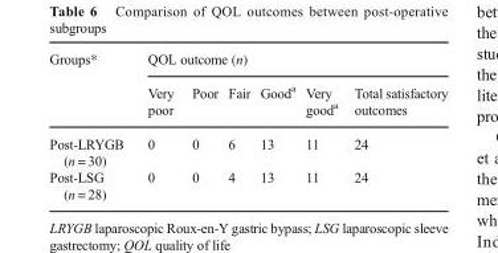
<table><thead><tr><td rowspan="2">Groups*</td><td colspan="6">QOL outcome (n)</td></tr><tr><td>Very poor</td><td>Poor</td><td>Fair</td><td>Good<sup>a</sup></td><td>Very good<sup>a</sup></td><td>Total satisfactory outcomes</td></tr></thead><tbody><tr><td>Post-LRYGB (n = 30)</td><td>0</td><td>0</td><td>6</td><td>13</td><td>11</td><td>24</td></tr><tr><td>Post-LSG (n = 28)</td><td>0</td><td>0</td><td>4</td><td>13</td><td>11</td><td>24</td></tr></tbody></table>